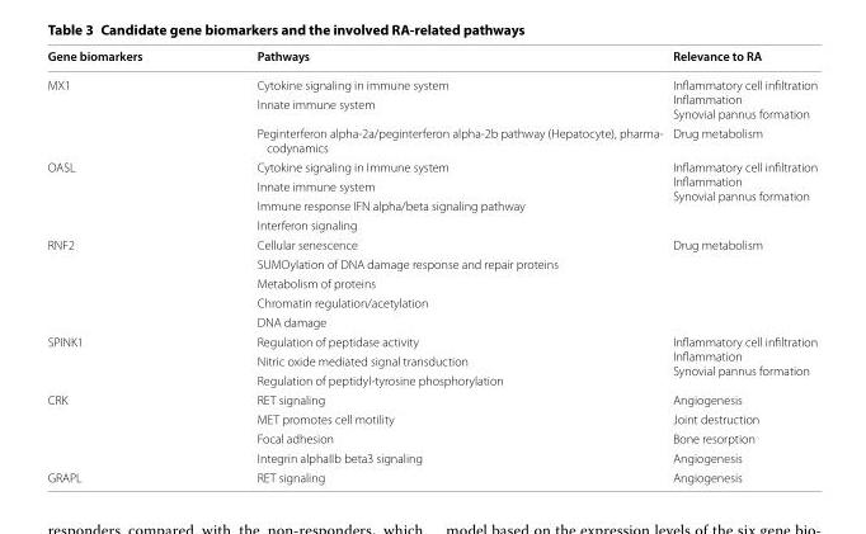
<table><thead><tr><td>Gene biomarkers</td><td>Pathways</td><td>Relevance to RA</td></tr></thead><tbody><tr><td rowspan="3">MX1</td><td>Cytokine signaling in immune system</td><td rowspan="2">Inflammatory cell infiltration Inflammation Synovial pannus formation</td></tr><tr><td>Innate immune system</td></tr><tr><td>Peginterferon alpha-2a/peginterferon alpha-2b pathway (Hepatocyte), pharma- codynamics</td><td>Drug metabolism</td></tr><tr><td rowspan="4">OASL</td><td>Cytokine signaling in Immune system</td><td rowspan="4">Inflammatory cell infiltration Inflammation Synovial pannus formation</td></tr><tr><td>Innate immune system</td></tr><tr><td>Immune response IFN alpha/beta signaling pathway</td></tr><tr><td>Interferon signaling</td></tr><tr><td rowspan="5">RNF2</td><td>Cellular senescence</td><td rowspan="5">Drug metabolism</td></tr><tr><td>SUMOylation of DNA damage response and repair proteins</td></tr><tr><td>Metabolism of proteins</td></tr><tr><td>Chromatin regulation/acetylation</td></tr><tr><td>DNA damage</td></tr><tr><td rowspan="3">SPINK1</td><td>Regulation of peptidase activity</td><td rowspan="3">Inflammatory cell infiltration Inflammation Synovial pannus formation</td></tr><tr><td>Nitric oxide mediated signal transduction</td></tr><tr><td>Regulation of peptidyl-tyrosine phosphorylation</td></tr><tr><td rowspan="4">CRK</td><td>RET signaling</td><td>Angiogenesis</td></tr><tr><td>MET promotes cell motility</td><td>Joint destruction</td></tr><tr><td>Focal adhesion</td><td>Bone resorption</td></tr><tr><td>Integrin alphaIIb beta3 signaling</td><td>Angiogenesis</td></tr><tr><td>GRAPL</td><td>RET signaling</td><td>Angiogenesis</td></tr></tbody></table>